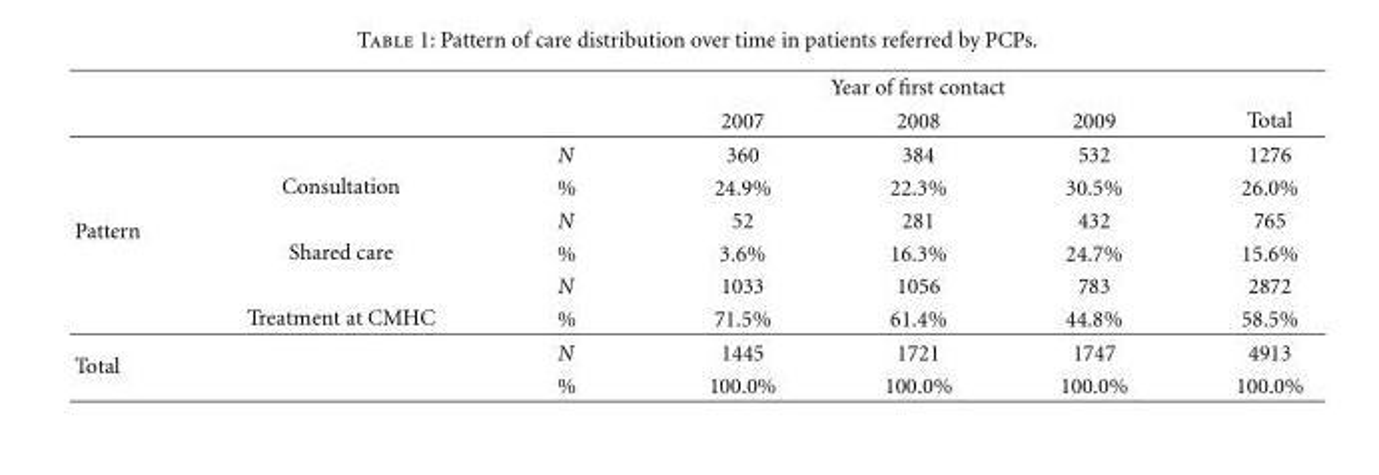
<table><thead><tr><td rowspan="2"></td><td rowspan="2"></td><td rowspan="2"></td><td colspan="3">Year of first contact</td><td rowspan="2">Total</td></tr><tr><td>2007</td><td>2008</td><td>2009</td></tr></thead><tbody><tr><td rowspan="6">Pattern</td><td rowspan="2">Consultation</td><td>N</td><td>360</td><td>384</td><td>532</td><td>1276</td></tr><tr><td>%</td><td>24.9%</td><td>22.3%</td><td>30.5%</td><td>26.0%</td></tr><tr><td rowspan="2">Shared care</td><td>N</td><td>52</td><td>281</td><td>432</td><td>765</td></tr><tr><td>%</td><td>3.6%</td><td>16.3%</td><td>24.7%</td><td>15.6%</td></tr><tr><td rowspan="2">Treatment at CMHC</td><td>N</td><td>1033</td><td>1056</td><td>783</td><td>2872</td></tr><tr><td>%</td><td>71.5%</td><td>61.4%</td><td>44.8%</td><td>58.5%</td></tr><tr><td rowspan="2">Total</td><td></td><td>N</td><td>1445</td><td>1721</td><td>1747</td><td>4913</td></tr><tr><td></td><td>%</td><td>100.0%</td><td>100.0%</td><td>100.0%</td><td>100.0%</td></tr></tbody></table>